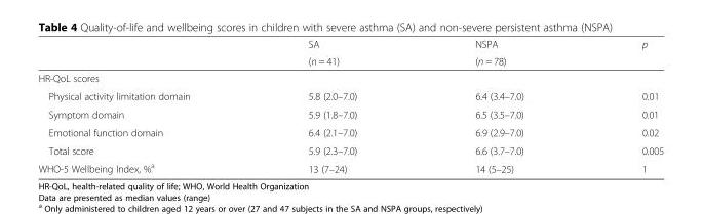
<table><thead><tr><td rowspan="2"></td><td rowspan="2">SA (n = 41)</td><td rowspan="2">NSPA (n = 78)</td><td rowspan="2">p</td></tr><tr></tr></thead><tbody><tr><td colspan="4">HR-QoL scores</td></tr><tr><td>Physical activity limitation domain</td><td>5.8 (2.0–7.0)</td><td>6.4 (3.4–7.0)</td><td>0.01</td></tr><tr><td>Symptom domain</td><td>5.9 (1.8–7.0)</td><td>6.5 (3.5–7.0)</td><td>0.01</td></tr><tr><td>Emotional function domain</td><td>6.4 (2.1–7.0)</td><td>6.9 (2.9–7.0)</td><td>0.02</td></tr><tr><td>Total score</td><td>5.9 (2.3–7.0)</td><td>6.6 (3.7–7.0)</td><td>0.005</td></tr><tr><td>WHO-5 Wellbeing Index, %<sup>a</sup></td><td>13 (7–24)</td><td>14 (5–25)</td><td>1</td></tr></tbody></table>